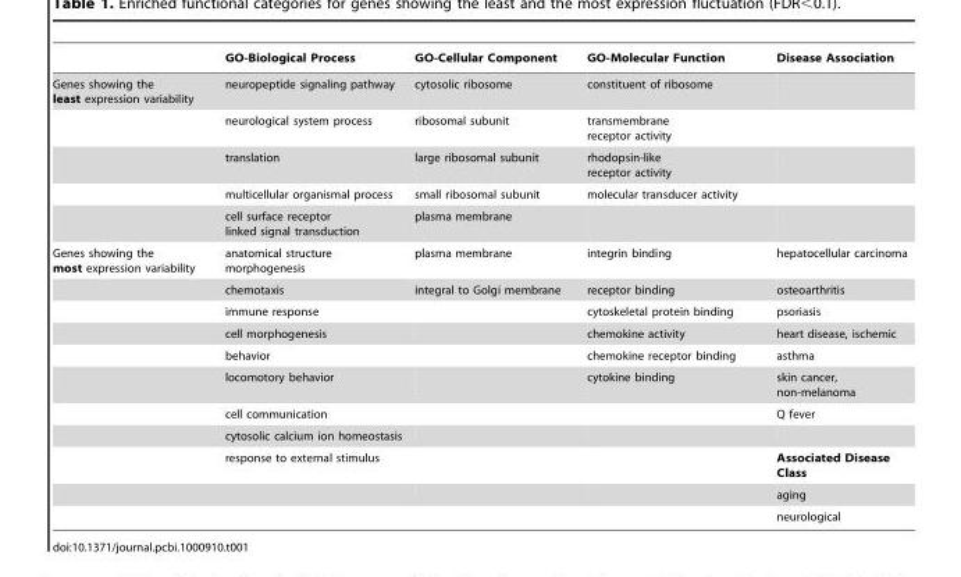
<table><thead><tr><td></td><td>GO-Biological Process</td><td>GO-Cellular Component</td><td>GO-Molecular Function</td><td>Disease Association</td></tr></thead><tbody><tr><td rowspan="5">Genes showing the least expression variability</td><td>neuropeptide signaling pathway</td><td>cytosolic ribosome</td><td>constituent of ribosome</td><td></td></tr><tr><td>neurological system process</td><td>ribosomal subunit</td><td>transmembrane receptor activity</td><td></td></tr><tr><td>translation</td><td>large ribosomal subunit</td><td>rhodopsin-like receptor activity</td><td></td></tr><tr><td>multicellular organismal process</td><td>small ribosomal subunit</td><td>molecular transducer activity</td><td></td></tr><tr><td>cell surface receptor linked signal transduction</td><td>plasma membrane</td><td></td><td></td></tr><tr><td rowspan="11">Genes showing the most expression variability</td><td>anatomical structure morphogenesis</td><td>plasma membrane</td><td>integrin binding</td><td>hepatocellular carcinoma</td></tr><tr><td>chemotaxis</td><td>integral to Golgi membrane</td><td>receptor binding</td><td>osteoarthritis</td></tr><tr><td>immune response</td><td></td><td>cytoskeletal protein binding</td><td>psoriasis</td></tr><tr><td>cell morphogenesis</td><td></td><td>chemokine activity</td><td>heart disease, ischemic</td></tr><tr><td>behavior</td><td></td><td>chemokine receptor binding</td><td>asthma</td></tr><tr><td>locomotory behavior</td><td></td><td>cytokine binding</td><td>skin cancer, non-melanoma</td></tr><tr><td>cell communication</td><td></td><td></td><td>Q fever</td></tr><tr><td>cytosolic calcium ion homeostasis</td><td></td><td></td><td></td></tr><tr><td>response to external stimulus</td><td></td><td></td><td>Associated Disease Class</td></tr><tr><td></td><td></td><td></td><td>aging</td></tr><tr><td></td><td></td><td></td><td>neurological</td></tr></tbody></table>